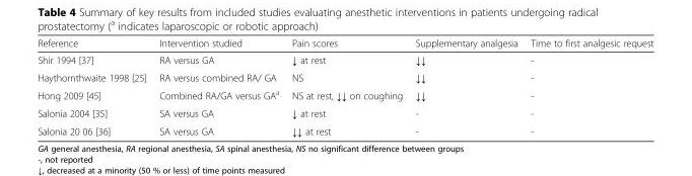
<table><thead><tr><td>Reference</td><td>Intervention studied</td><td>Pain scores</td><td>Supplementary analgesia</td><td>Time to first analgesic request</td></tr></thead><tbody><tr><td>Shir 1994 [37]</td><td>RA versus GA</td><td>↓ at rest</td><td>↓↓</td><td>-</td></tr><tr><td>Haythornthwaite 1998 [25]</td><td>RA versus combined RA/ GA</td><td>NS</td><td>↓↓</td><td>-</td></tr><tr><td>Hong 2009 [45]</td><td>Combined RA/GA versus GA<sup>a</sup></td><td>NS at rest, ↓↓ on coughing</td><td>↓↓</td><td>-</td></tr><tr><td>Salonia 2004 [35]</td><td>SA versus GA</td><td>↓ at rest</td><td>-</td><td>-</td></tr><tr><td>Salonia 20 06 [36]</td><td>SA versus GA</td><td>↓↓ at rest</td><td>-</td><td>-</td></tr></tbody></table>